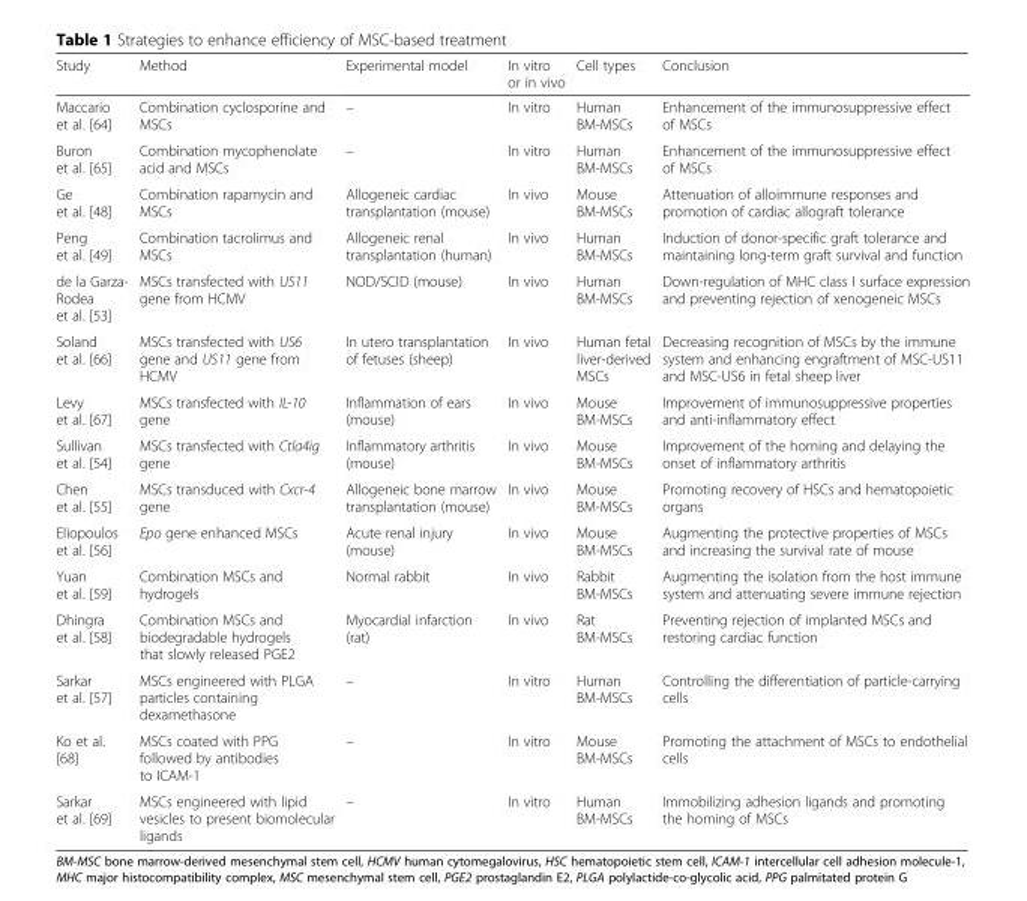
<table><thead><tr><td>Study</td><td>Method</td><td>Experimental model</td><td>In vitro or in vivo</td><td>Cell types</td><td>Conclusion</td></tr></thead><tbody><tr><td>Maccario et al. [64]</td><td>Combination cyclosporine and MSCs</td><td>–</td><td>In vitro</td><td>Human BM-MSCs</td><td>Enhancement of the immunosuppressive effect of MSCs</td></tr><tr><td>Buron et al. [65]</td><td>Combination mycophenolate acid and MSCs</td><td>–</td><td>In vitro</td><td>Human BM-MSCs</td><td>Enhancement of the immunosuppressive effect of MSCs</td></tr><tr><td>Ge et al. [48]</td><td>Combination rapamycin and MSCs</td><td>Allogeneic cardiac transplantation (mouse)</td><td>In vivo</td><td>Mouse BM-MSCs</td><td>Attenuation of alloimmune responses and promotion of cardiac allograft tolerance</td></tr><tr><td>Peng et al. [49]</td><td>Combination tacrolimus and MSCs</td><td>Allogeneic renal transplantation (human)</td><td>In vivo</td><td>Human BM-MSCs</td><td>Induction of donor-specific graft tolerance and maintaining long-term graft survival and function</td></tr><tr><td>de la Garza- Rodea et al. [53]</td><td>MSCs transfected with US11 gene from HCMV</td><td>NOD/SCID (mouse)</td><td>In vivo</td><td>Human BM-MSCs</td><td>Down-regulation of MHC class I surface expression and preventing rejection of xenogeneic MSCs</td></tr><tr><td>Soland et al. [66]</td><td>MSCs transfected with US6 gene and US11 gene from HCMV</td><td>In utero transplantation of fetuses (sheep)</td><td>In vivo</td><td>Human fetal liver-derived MSCs</td><td>Decreasing recognition of MSCs by the immune system and enhancing engraftment of MSC-US11 and MSC-US6 in fetal sheep liver</td></tr><tr><td>Levy et al. [67]</td><td>MSCs transfected with IL-10 gene</td><td>Inflammation of ears (mouse)</td><td>In vivo</td><td>Mouse BM-MSCs</td><td>Improvement of immunosuppressive properties and anti-inflammatory effect</td></tr><tr><td>Sullivan et al. [54]</td><td>MSCs transfected with Ctla4ig gene</td><td>Inflammatory arthritis (mouse)</td><td>In vivo</td><td>Mouse BM-MSCs</td><td>Improvement of the homing and delaying the onset of inflammatory arthritis</td></tr><tr><td>Chen et al. [55]</td><td>MSCs transduced with Cxcr-4 gene</td><td>Allogeneic bone marrow transplantation (mouse)</td><td>In vivo</td><td>Mouse BM-MSCs</td><td>Promoting recovery of HSCs and hematopoietic organs</td></tr><tr><td>Eliopoulos et al. [56]</td><td>Epo gene enhanced MSCs</td><td>Acute renal injury (mouse)</td><td>In vivo</td><td>Mouse BM-MSCs</td><td>Augmenting the protective properties of MSCs and increasing the survival rate of mouse</td></tr><tr><td>Yuan et al. [59]</td><td>Combination MSCs and hydrogels</td><td>Normal rabbit</td><td>In vivo</td><td>Rabbit BM-MSCs</td><td>Augmenting the isolation from the host immune system and attenuating severe immune rejection</td></tr><tr><td>Dhingra et al. [58]</td><td>Combination MSCs and biodegradable hydrogels that slowly released PGE2</td><td>Myocardial infarction (rat)</td><td>In vivo</td><td>Rat BM-MSCs</td><td>Preventing rejection of implanted MSCs and restoring cardiac function</td></tr><tr><td>Sarkar et al. [57]</td><td>MSCs engineered with PLGA particles containing dexamethasone</td><td>–</td><td>In vitro</td><td>Human BM-MSCs</td><td>Controlling the differentiation of particle-carrying cells</td></tr><tr><td>Ko et al. [68]</td><td>MSCs coated with PPG followed by antibodies to ICAM-1</td><td>–</td><td>In vitro</td><td>Mouse BM-MSCs</td><td>Promoting the attachment of MSCs to endothelial cells</td></tr><tr><td>Sarkar et al. [69]</td><td>MSCs engineered with lipid vesicles to present biomolecular ligands</td><td>–</td><td>In vitro</td><td>Human BM-MSCs</td><td>Immobilizing adhesion ligands and promoting the homing of MSCs</td></tr></tbody></table>